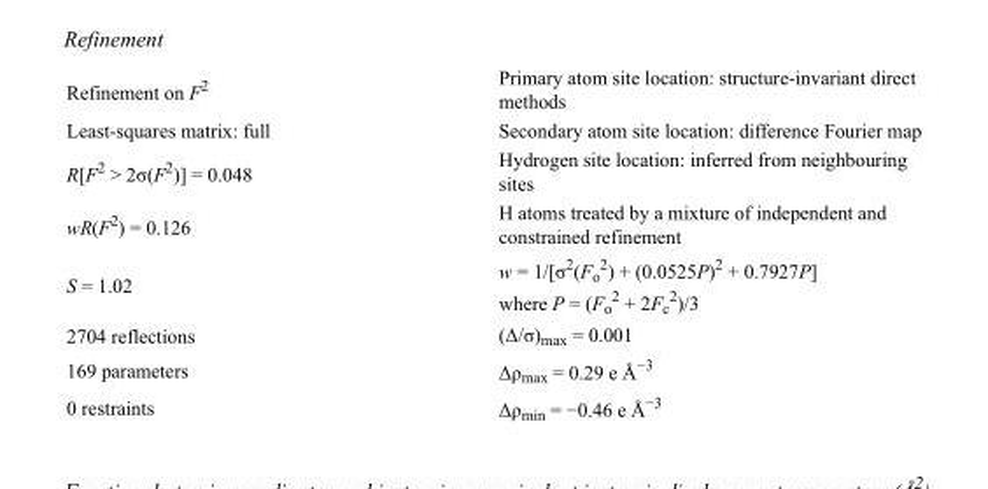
<table><tbody><tr><td>Refinement on F<sup>2</sup></td><td>Primary atom site location: structure-invariant direct methods</td></tr><tr><td>Least-squares matrix: full</td><td>Secondary atom site location: difference Fourier map</td></tr><tr><td>R[F<sup>2</sup> &gt; 2σ(F<sup>2</sup>)] = 0.048</td><td>Hydrogen site location: inferred from neighbouring sites</td></tr><tr><td>wR(F<sup>2</sup>) = 0.126</td><td>H atoms treated by a mixture of independent and constrained refinement</td></tr><tr><td>S = 1.02</td><td>w = 1/[σ<sup>2</sup>(F<sub>o</sub> <sup>2</sup>) + (0.0525P)<sup>2</sup> + 0.7927P] where P = (F<sub>o</sub> <sup>2</sup> + 2F<sub>c</sub> <sup>2</sup>)/3</td></tr><tr><td>2704 reflections</td><td>(Δ/σ)<sub>max</sub> = 0.001</td></tr><tr><td>169 parameters</td><td>Δρ<sub>max</sub> = 0.29 e Å<sup>−3</sup></td></tr><tr><td>0 restraints</td><td>Δρ<sub>min</sub> = −0.46 e Å<sup>−3</sup></td></tr></tbody></table>